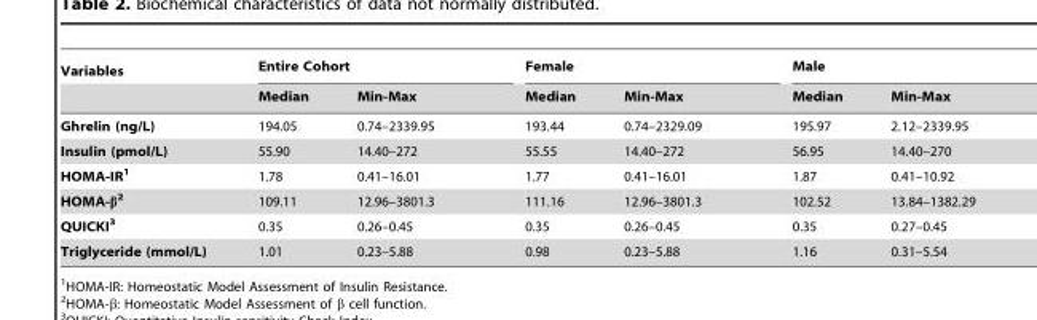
<table><thead><tr><td rowspan="2">Variables</td><td colspan="2">Entire Cohort</td><td colspan="2">Female</td><td colspan="2">Male</td></tr><tr><td>Median</td><td>Min-Max</td><td>Median</td><td>Min-Max</td><td>Median</td><td>Min-Max</td></tr></thead><tbody><tr><td>Ghrelin (ng/L)</td><td>194.05</td><td>0.74–2339.95</td><td>193.44</td><td>0.74–2329.09</td><td>195.97</td><td>2.12–2339.95</td></tr><tr><td>Insulin (pmol/L)</td><td>55.90</td><td>14.40–272</td><td>55.55</td><td>14.40–272</td><td>56.95</td><td>14.40–270</td></tr><tr><td>HOMA-IR1</td><td>1.78</td><td>0.41–16.01</td><td>1.77</td><td>0.41–16.01</td><td>1.87</td><td>0.41–10.92</td></tr><tr><td>HOMA-β2</td><td>109.11</td><td>12.96–3801.3</td><td>111.16</td><td>12.96–3801.3</td><td>102.52</td><td>13.84–1382.29</td></tr><tr><td>QUICKI3</td><td>0.35</td><td>0.26–0.45</td><td>0.35</td><td>0.26–0.45</td><td>0.35</td><td>0.27–0.45</td></tr><tr><td>Triglyceride (mmol/L)</td><td>1.01</td><td>0.23–5.88</td><td>0.98</td><td>0.23–5.88</td><td>1.16</td><td>0.31–5.54</td></tr></tbody></table>